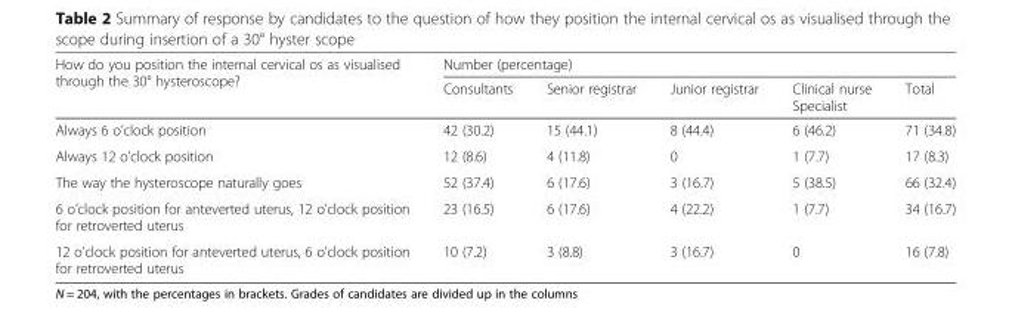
<table><thead><tr><td rowspan="2">How do you position the internal cervical os as visualised through the 30° hysteroscope?</td><td colspan="5">Number (percentage)</td></tr><tr><td>Consultants</td><td>Senior registrar</td><td>Junior registrar</td><td>Clinical nurse Specialist</td><td>Total</td></tr></thead><tbody><tr><td>Always 6 o’clock position</td><td>42 (30.2)</td><td>15 (44.1)</td><td>8 (44.4)</td><td>6 (46.2)</td><td>71 (34.8)</td></tr><tr><td>Always 12 o’clock position</td><td>12 (8.6)</td><td>4 (11.8)</td><td>0</td><td>1 (7.7)</td><td>17 (8.3)</td></tr><tr><td>The way the hysteroscope naturally goes</td><td>52 (37.4)</td><td>6 (17.6)</td><td>3 (16.7)</td><td>5 (38.5)</td><td>66 (32.4)</td></tr><tr><td>6 o’clock position for anteverted uterus, 12 o’clock position for retroverted uterus</td><td>23 (16.5)</td><td>6 (17.6)</td><td>4 (22.2)</td><td>1 (7.7)</td><td>34 (16.7)</td></tr><tr><td>12 o’clock position for anteverted uterus, 6 o’clock position for retroverted uterus</td><td>10 (7.2)</td><td>3 (8.8)</td><td>3 (16.7)</td><td>0</td><td>16 (7.8)</td></tr></tbody></table>